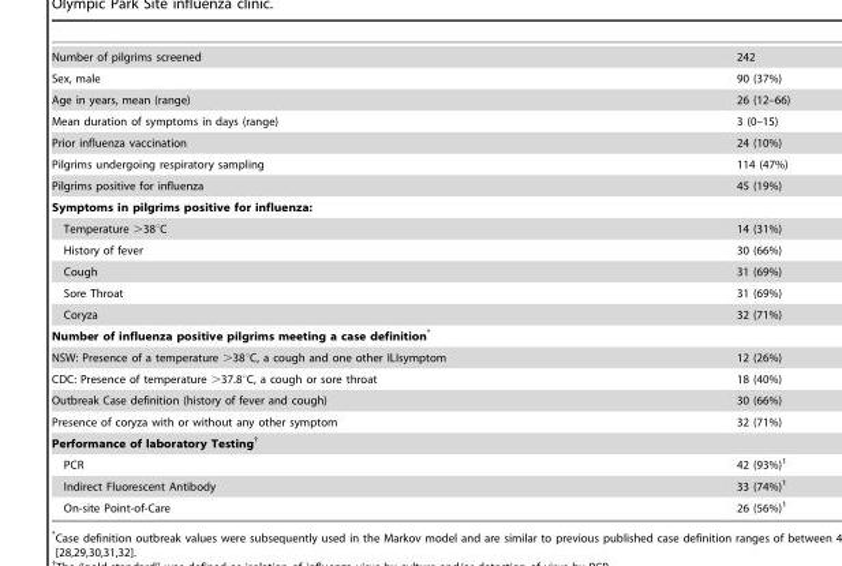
<table><tbody><tr><td>Number of pilgrims screened</td><td>242</td></tr><tr><td>Sex, male</td><td>90 (37%)</td></tr><tr><td>Age in years, mean (range)</td><td>26 (12–66)</td></tr><tr><td>Mean duration of symptoms in days (range)</td><td>3 (0–15)</td></tr><tr><td>Prior influenza vaccination</td><td>24 (10%)</td></tr><tr><td>Pilgrims undergoing respiratory sampling</td><td>114 (47%)</td></tr><tr><td>Pilgrims positive for influenza</td><td>45 (19%)</td></tr><tr><td colspan="2">Symptoms in pilgrims positive for influenza:</td></tr><tr><td>Temperature &gt;38°C</td><td>14 (31%)</td></tr><tr><td>History of fever</td><td>30 (66%)</td></tr><tr><td>Cough</td><td>31 (69%)</td></tr><tr><td>Sore Throat</td><td>31 (69%)</td></tr><tr><td>Coryza</td><td>32 (71%)</td></tr><tr><td colspan="2">Number of influenza positive pilgrims meeting a case definition*</td></tr><tr><td>NSW: Presence of a temperature &gt;38°C, a cough and one other ILIsymptom</td><td>12 (26%)</td></tr><tr><td>CDC: Presence of temperature &gt;37.8°C, a cough or sore throat</td><td>18 (40%)</td></tr><tr><td>Outbreak Case definition (history of fever and cough)</td><td>30 (66%)</td></tr><tr><td>Presence of coryza with or without any other symptom</td><td>32 (71%)</td></tr><tr><td colspan="2">Performance of laboratory Testing†</td></tr><tr><td>PCR</td><td>42 (93%)<sup>1</sup></td></tr><tr><td>Indirect Fluorescent Antibody</td><td>33 (74%)<sup>1</sup></td></tr><tr><td>On-site Point-of-Care</td><td>26 (56%)<sup>1</sup></td></tr></tbody></table>